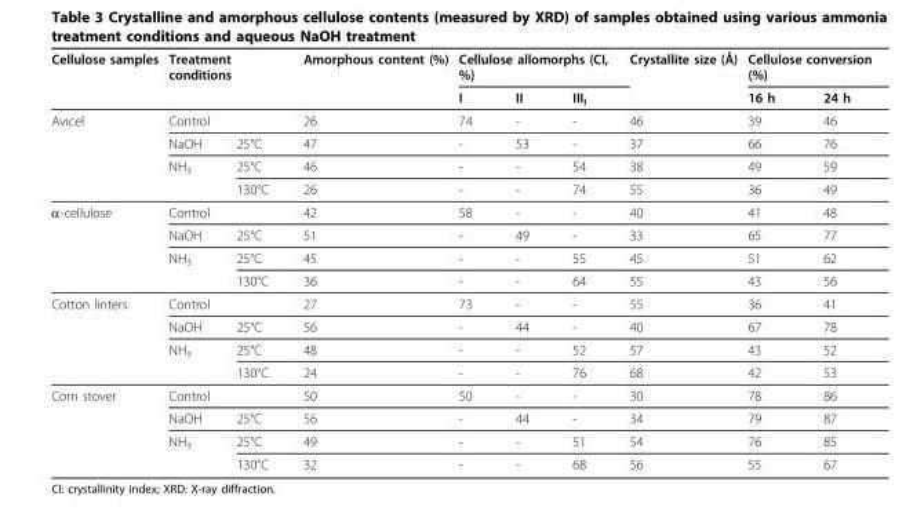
<table><thead><tr><td rowspan="2">Cellulose samples</td><td colspan="2">Treatment conditions</td><td rowspan="2">Amorphous content (%)</td><td colspan="3">Cellulose allomorphs (CI, %)</td><td rowspan="2">Crystallite size (Å)</td><td colspan="2">Cellulose conversion (%)</td></tr><tr><td></td><td></td><td>I</td><td>II</td><td>III<sub>I</sub></td><td>16 h</td><td>24 h</td></tr></thead><tbody><tr><td rowspan="4">Avicel</td><td colspan="2">Control</td><td>26</td><td>74</td><td>-</td><td>-</td><td>46</td><td>39</td><td>46</td></tr><tr><td>NaOH</td><td>25°C</td><td>47</td><td>-</td><td>53</td><td>-</td><td>37</td><td>66</td><td>76</td></tr><tr><td>NH<sub>3</sub></td><td>25°C</td><td>46</td><td>-</td><td>-</td><td>54</td><td>38</td><td>49</td><td>59</td></tr><tr><td></td><td>130°C</td><td>26</td><td>-</td><td>-</td><td>74</td><td>55</td><td>36</td><td>49</td></tr><tr><td rowspan="4">α-cellulose</td><td colspan="2">Control</td><td>42</td><td>58</td><td>-</td><td>-</td><td>40</td><td>41</td><td>48</td></tr><tr><td>NaOH</td><td>25°C</td><td>51</td><td>-</td><td>49</td><td>-</td><td>33</td><td>65</td><td>77</td></tr><tr><td>NH<sub>3</sub></td><td>25°C</td><td>45</td><td>-</td><td>-</td><td>55</td><td>45</td><td>51</td><td>62</td></tr><tr><td></td><td>130°C</td><td>36</td><td>-</td><td>-</td><td>64</td><td>55</td><td>43</td><td>56</td></tr><tr><td rowspan="4">Cotton linters</td><td colspan="2">Control</td><td>27</td><td>73</td><td>-</td><td>-</td><td>55</td><td>36</td><td>41</td></tr><tr><td>NaOH</td><td>25°C</td><td>56</td><td>-</td><td>44</td><td>-</td><td>40</td><td>67</td><td>78</td></tr><tr><td>NH<sub>3</sub></td><td>25°C</td><td>48</td><td>-</td><td>-</td><td>52</td><td>57</td><td>43</td><td>52</td></tr><tr><td></td><td>130°C</td><td>24</td><td>-</td><td>-</td><td>76</td><td>68</td><td>42</td><td>53</td></tr><tr><td rowspan="4">Corn stover</td><td colspan="2">Control</td><td>50</td><td>50</td><td>-</td><td>-</td><td>30</td><td>78</td><td>86</td></tr><tr><td>NaOH</td><td>25°C</td><td>56</td><td>-</td><td>44</td><td>-</td><td>34</td><td>79</td><td>87</td></tr><tr><td>NH<sub>3</sub></td><td>25°C</td><td>49</td><td>-</td><td>-</td><td>51</td><td>54</td><td>76</td><td>85</td></tr><tr><td></td><td>130°C</td><td>32</td><td>-</td><td>-</td><td>68</td><td>56</td><td>55</td><td>67</td></tr></tbody></table>